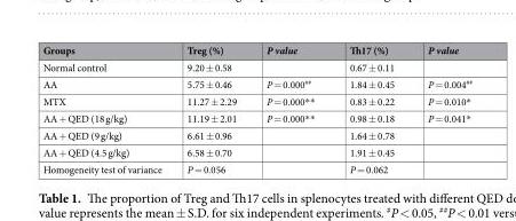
<table><thead><tr><td>Groups</td><td>Treg (%)</td><td>P value</td><td>Th17 (%)</td><td>P value</td></tr></thead><tbody><tr><td>Normal control</td><td>9.20 ± 0.58</td><td></td><td>0.67 ± 0.11</td><td></td></tr><tr><td>AA</td><td>5.75 ± 0.46</td><td>P = 0.000<sup>##</sup></td><td>1.84 ± 0.45</td><td>P = 0.004<sup>##</sup></td></tr><tr><td>MTX</td><td>11.27 ± 2.29</td><td>P = 0.000**</td><td>0.83 ± 0.22</td><td>P = 0.010*</td></tr><tr><td>AA + QED (18 g/kg)</td><td>11.19 ± 2.01</td><td>P = 0.000**</td><td>0.98 ± 0.18</td><td>P = 0.041*</td></tr><tr><td>AA + QED (9 g/kg)</td><td>6.61 ± 0.96</td><td></td><td>1.64 ± 0.78</td><td></td></tr><tr><td>AA + QED (4.5 g/kg)</td><td>6.58 ± 0.70</td><td></td><td>1.91 ± 0.45</td><td></td></tr><tr><td>Homogeneity test of variance</td><td>P = 0.056</td><td></td><td>P = 0.062</td><td></td></tr></tbody></table>